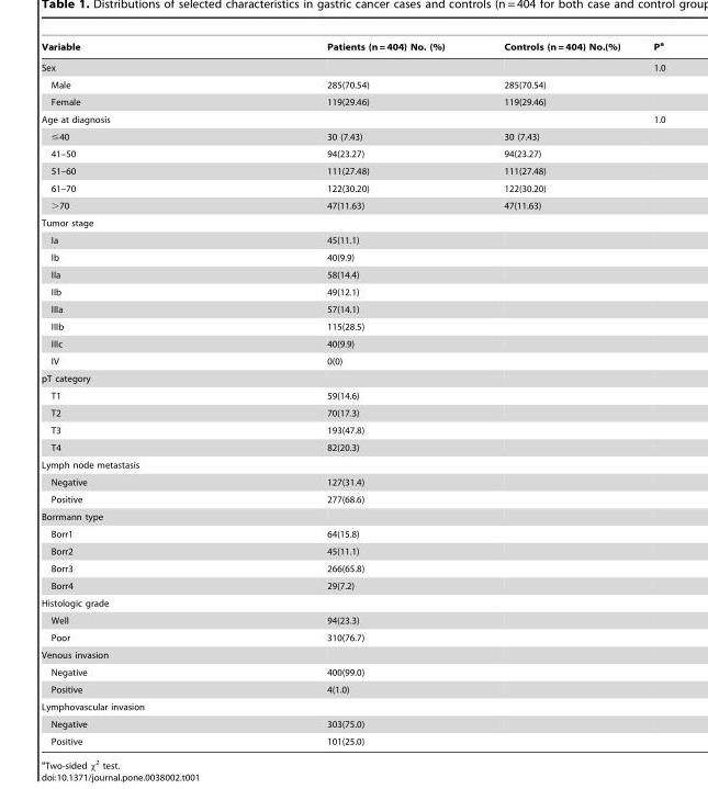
<table><thead><tr><td>Variable</td><td>Patients (n = 404) No. (%)</td><td>Controls (n = 404) No.(%)</td><td>P<sup>a</sup></td></tr></thead><tbody><tr><td>Sex</td><td></td><td></td><td>1.0</td></tr><tr><td>Male</td><td>285(70.54)</td><td>285(70.54)</td><td></td></tr><tr><td>Female</td><td>119(29.46)</td><td>119(29.46)</td><td></td></tr><tr><td>Age at diagnosis</td><td></td><td></td><td>1.0</td></tr><tr><td>≤40</td><td>30 (7.43)</td><td>30 (7.43)</td><td></td></tr><tr><td>41–50</td><td>94(23.27)</td><td>94(23.27)</td><td></td></tr><tr><td>51–60</td><td>111(27.48)</td><td>111(27.48)</td><td></td></tr><tr><td>61–70</td><td>122(30.20)</td><td>122(30.20)</td><td></td></tr><tr><td>&gt;70</td><td>47(11.63)</td><td>47(11.63)</td><td></td></tr><tr><td colspan="4">Tumor stage</td></tr><tr><td>Ia</td><td>45(11.1)</td><td></td><td></td></tr><tr><td>Ib</td><td>40(9.9)</td><td></td><td></td></tr><tr><td>IIa</td><td>58(14.4)</td><td></td><td></td></tr><tr><td>IIb</td><td>49(12.1)</td><td></td><td></td></tr><tr><td>IIIa</td><td>57(14.1)</td><td></td><td></td></tr><tr><td>IIIb</td><td>115(28.5)</td><td></td><td></td></tr><tr><td>IIIc</td><td>40(9.9)</td><td></td><td></td></tr><tr><td>IV</td><td>0(0)</td><td></td><td></td></tr><tr><td colspan="4">pT category</td></tr><tr><td>T1</td><td>59(14.6)</td><td></td><td></td></tr><tr><td>T2</td><td>70(17.3)</td><td></td><td></td></tr><tr><td>T3</td><td>193(47.8)</td><td></td><td></td></tr><tr><td>T4</td><td>82(20.3)</td><td></td><td></td></tr><tr><td colspan="4">Lymph node metastasis</td></tr><tr><td>Negative</td><td>127(31.4)</td><td></td><td></td></tr><tr><td>Positive</td><td>277(68.6)</td><td></td><td></td></tr><tr><td colspan="4">Borrmann type</td></tr><tr><td>Borr1</td><td>64(15.8)</td><td></td><td></td></tr><tr><td>Borr2</td><td>45(11.1)</td><td></td><td></td></tr><tr><td>Borr3</td><td>266(65.8)</td><td></td><td></td></tr><tr><td>Borr4</td><td>29(7.2)</td><td></td><td></td></tr><tr><td colspan="4">Histologic grade</td></tr><tr><td>Well</td><td>94(23.3)</td><td></td><td></td></tr><tr><td>Poor</td><td>310(76.7)</td><td></td><td></td></tr><tr><td colspan="4">Venous invasion</td></tr><tr><td>Negative</td><td>400(99.0)</td><td></td><td></td></tr><tr><td>Positive</td><td>4(1.0)</td><td></td><td></td></tr><tr><td colspan="4">Lymphovascular invasion</td></tr><tr><td>Negative</td><td>303(75.0)</td><td></td><td></td></tr><tr><td>Positive</td><td>101(25.0)</td><td></td><td></td></tr></tbody></table>